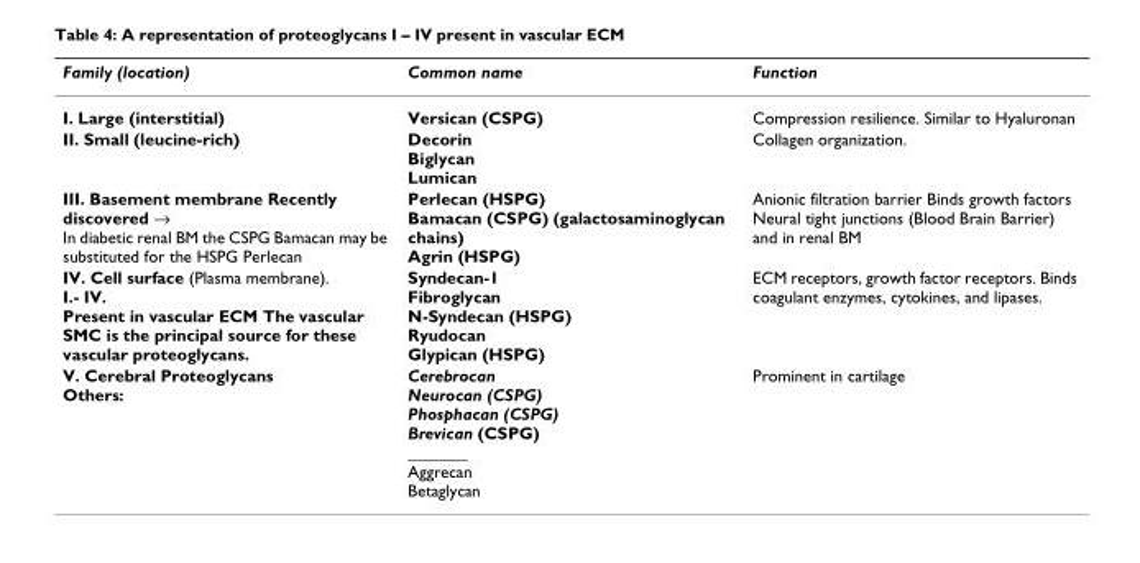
<table><thead><tr><td>Family (location)</td><td>Common name</td><td>Function</td></tr></thead><tbody><tr><td>I. Large (interstitial)</td><td>Versican (CSPG)</td><td>Compression resilience. Similar to Hyaluronan</td></tr><tr><td>II. Small (leucine-rich)</td><td>Decorin Biglycan Lumican</td><td>Collagen organization.</td></tr><tr><td>III. Basement membrane Recently discovered → In diabetic renal BM the CSPG Bamacan may be substituted for the HSPG Perlecan</td><td>Perlecan (HSPG) Bamacan (CSPG) (galactosaminoglycan chains) Agrin (HSPG)</td><td>Anionic filtration barrier Binds growth factors Neural tight junctions (Blood Brain Barrier) and in renal BM</td></tr><tr><td>IV. Cell surface (Plasma membrane). I.- IV. Present in vascular ECM The vascular SMC is the principal source for these vascular proteoglycans.</td><td>Syndecan-1 Fibroglycan N-Syndecan (HSPG) Ryudocan Glypican (HSPG)</td><td>ECM receptors, growth factor receptors. Binds coagulant enzymes, cytokines, and lipases.</td></tr><tr><td>V. Cerebral Proteoglycans Others:</td><td>Cerebrocan Neurocan (CSPG) Phosphacan (CSPG) Brevican (CSPG) _______ Aggrecan Betaglycan</td><td>Prominent in cartilage</td></tr></tbody></table>